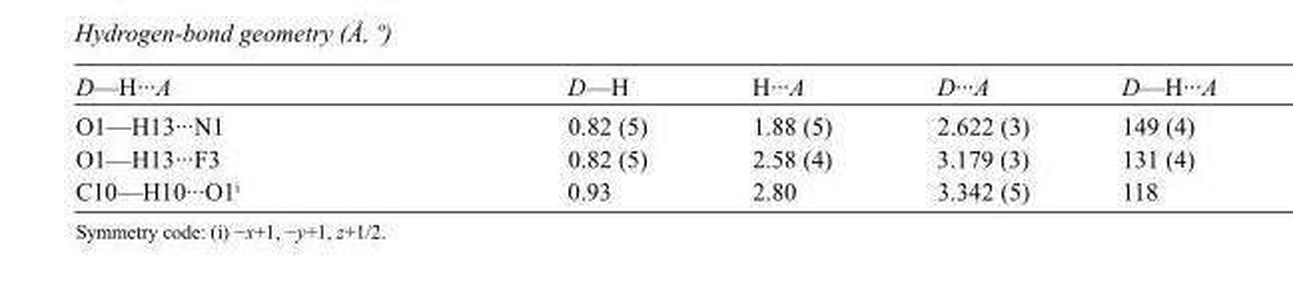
<table><tbody><tr><td>D—H···A</td><td>D—H</td><td>H···A</td><td>D···A</td><td>D—H···A</td></tr><tr><td>O1—H13···N1</td><td>0.82 (5)</td><td>1.88 (5)</td><td>2.622 (3)</td><td>149 (4)</td></tr><tr><td>O1—H13···F3</td><td>0.82 (5)</td><td>2.58 (4)</td><td>3.179 (3)</td><td>131 (4)</td></tr><tr><td>C10—H10···O1<sup>i</sup></td><td>0.93</td><td>2.80</td><td>3.342 (5)</td><td>118</td></tr></tbody></table>